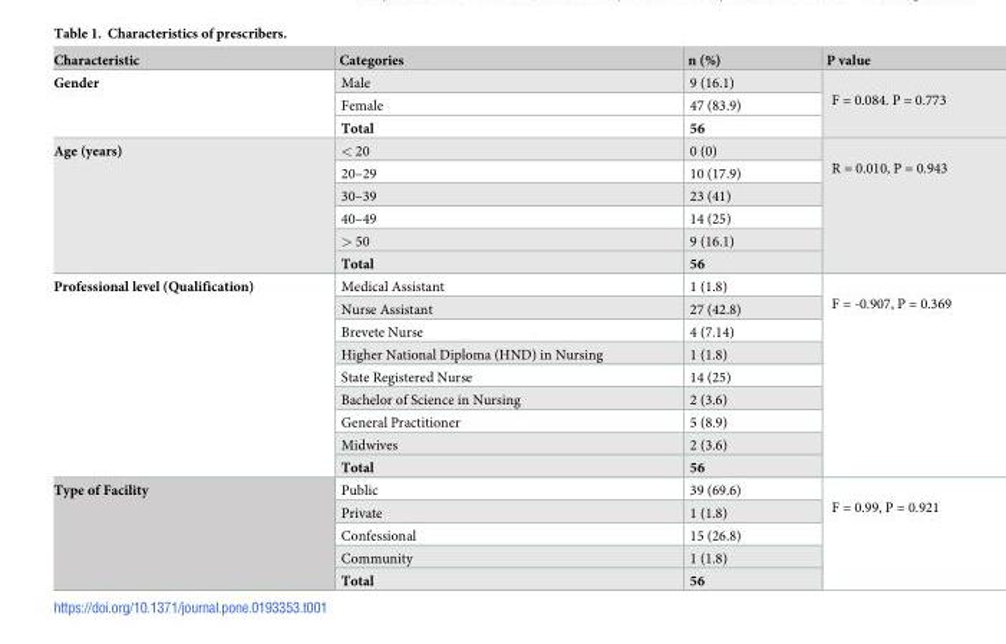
<table><thead><tr><td>Characteristic</td><td>Categories</td><td>n (%)</td><td>P value</td></tr></thead><tbody><tr><td rowspan="3">Gender</td><td>Male</td><td>9 (16.1)</td><td rowspan="3">F = 0.084. P = 0.773</td></tr><tr><td>Female</td><td>47 (83.9)</td></tr><tr><td>Total</td><td>56</td></tr><tr><td rowspan="6">Age (years)</td><td>&lt; 20</td><td>0 (0)</td><td rowspan="6">R = 0.010, P = 0.943</td></tr><tr><td>20–29</td><td>10 (17.9)</td></tr><tr><td>30–39</td><td>23 (41)</td></tr><tr><td>40–49</td><td>14 (25)</td></tr><tr><td>&gt; 50</td><td>9 (16.1)</td></tr><tr><td>Total</td><td>56</td></tr><tr><td rowspan="9">Professional level (Qualification)</td><td>Medical Assistant</td><td>1 (1.8)</td><td rowspan="9">F = -0.907, P = 0.369</td></tr><tr><td>Nurse Assistant</td><td>27 (42.8)</td></tr><tr><td>Brevete Nurse</td><td>4 (7.14)</td></tr><tr><td>Higher National Diploma (HND) in Nursing</td><td>1 (1.8)</td></tr><tr><td>State Registered Nurse</td><td>14 (25)</td></tr><tr><td>Bachelor of Science in Nursing</td><td>2 (3.6)</td></tr><tr><td>General Practitioner</td><td>5 (8.9)</td></tr><tr><td>Midwives</td><td>2 (3.6)</td></tr><tr><td>Total</td><td>56</td></tr><tr><td rowspan="5">Type of Facility</td><td>Public</td><td>39 (69.6)</td><td rowspan="5">F = 0.99, P = 0.921</td></tr><tr><td>Private</td><td>1 (1.8)</td></tr><tr><td>Confessional</td><td>15 (26.8)</td></tr><tr><td>Community</td><td>1 (1.8)</td></tr><tr><td>Total</td><td>56</td></tr></tbody></table>